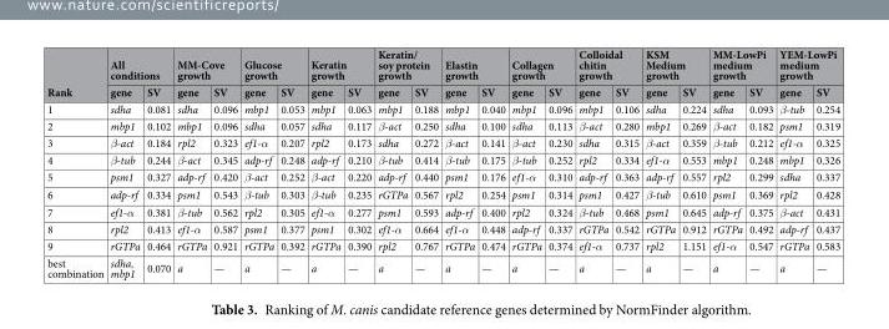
<table><thead><tr><td rowspan="2">Rank</td><td colspan="2">All conditions</td><td colspan="2">MM-Cove growth</td><td colspan="2">Glucose growth</td><td colspan="2">Keratin growth</td><td colspan="2">Keratin/ soy protein growth</td><td colspan="2">Elastin growth</td><td colspan="2">Collagen growth</td><td colspan="2">Colloidal chitin growth</td><td colspan="2">KSM Medium growth</td><td colspan="2">MM-LowPi medium growth</td><td colspan="2">YEM-LowPi medium growth</td></tr><tr><td>gene</td><td>SV</td><td>gene</td><td>SV</td><td>gene</td><td>SV</td><td>gene</td><td>SV</td><td>gene</td><td>SV</td><td>gene</td><td>SV</td><td>gene</td><td>SV</td><td>gene</td><td>SV</td><td>gene</td><td>SV</td><td>gene</td><td>SV</td><td>gene</td><td>SV</td></tr></thead><tbody><tr><td>1</td><td>sdha</td><td>0.081</td><td>sdha</td><td>0.096</td><td>mbp1</td><td>0.053</td><td>mbp1</td><td>0.063</td><td>mbp1</td><td>0.188</td><td>mbp1</td><td>0.040</td><td>mbp1</td><td>0.096</td><td>mbp1</td><td>0.106</td><td>sdha</td><td>0.224</td><td>sdha</td><td>0.093</td><td>β-tub</td><td>0.254</td></tr><tr><td>2</td><td>mbp1</td><td>0.102</td><td>mbp1</td><td>0.096</td><td>sdha</td><td>0.057</td><td>sdha</td><td>0.117</td><td>β-act</td><td>0.250</td><td>sdha</td><td>0.100</td><td>sdha</td><td>0.113</td><td>β-act</td><td>0.280</td><td>mbp1</td><td>0.269</td><td>β-act</td><td>0.182</td><td>psm1</td><td>0.319</td></tr><tr><td>3</td><td>β-act</td><td>0.184</td><td>rpl2</td><td>0.323</td><td>ef1-α</td><td>0.207</td><td>rpl2</td><td>0.173</td><td>sdha</td><td>0.272</td><td>β-act</td><td>0.141</td><td>β-act</td><td>0.230</td><td>sdha</td><td>0.315</td><td>β-act</td><td>0.359</td><td>β-tub</td><td>0.212</td><td>ef1-α</td><td>0.325</td></tr><tr><td>4</td><td>β-tub</td><td>0.244</td><td>β-act</td><td>0.345</td><td>adp-rf</td><td>0.248</td><td>adp-rf</td><td>0.210</td><td>β-tub</td><td>0.414</td><td>β-tub</td><td>0.175</td><td>β-tub</td><td>0.252</td><td>rpl2</td><td>0.334</td><td>ef1-α</td><td>0.553</td><td>mbp1</td><td>0.248</td><td>mbp1</td><td>0.326</td></tr><tr><td>5</td><td>psm1</td><td>0.327</td><td>adp-rf</td><td>0.420</td><td>β-act</td><td>0.252</td><td>β-act</td><td>0.220</td><td>adp-rf</td><td>0.440</td><td>psm1</td><td>0.176</td><td>ef1-α</td><td>0.310</td><td>adp-rf</td><td>0.363</td><td>adp-rf</td><td>0.557</td><td>rpl2</td><td>0.299</td><td>sdha</td><td>0.337</td></tr><tr><td>6</td><td>adp-rf</td><td>0.334</td><td>psm1</td><td>0.543</td><td>β-tub</td><td>0.303</td><td>β-tub</td><td>0.235</td><td>rGTPa</td><td>0.567</td><td>rpl2</td><td>0.254</td><td>psm1</td><td>0.314</td><td>psm1</td><td>0.427</td><td>β-tub</td><td>0.610</td><td>psm1</td><td>0.369</td><td>rpl2</td><td>0.428</td></tr><tr><td>7</td><td>ef1-α</td><td>0.381</td><td>β-tub</td><td>0.562</td><td>rpl2</td><td>0.305</td><td>ef1-α</td><td>0.277</td><td>psm1</td><td>0.593</td><td>adp-rf</td><td>0.400</td><td>rpl2</td><td>0.324</td><td>β-tub</td><td>0.468</td><td>psm1</td><td>0.645</td><td>adp-rf</td><td>0.375</td><td>β-act</td><td>0.431</td></tr><tr><td>8</td><td>rpl2</td><td>0.413</td><td>ef1-α</td><td>0.587</td><td>psm1</td><td>0.377</td><td>psm1</td><td>0.302</td><td>ef1-α</td><td>0.664</td><td>ef1-α</td><td>0.448</td><td>adp-rf</td><td>0.337</td><td>rGTPa</td><td>0.542</td><td>rGTPa</td><td>0.912</td><td>rGTPa</td><td>0.492</td><td>adp-rf</td><td>0.437</td></tr><tr><td>9</td><td>rGTPa</td><td>0.464</td><td>rGTPa</td><td>0.921</td><td>rGTPa</td><td>0.392</td><td>rGTPa</td><td>0.390</td><td>rpl2</td><td>0.767</td><td>rGTPa</td><td>0.474</td><td>rGTPa</td><td>0.374</td><td>ef1-α</td><td>0.737</td><td>rpl2</td><td>1.151</td><td>ef1-α</td><td>0.547</td><td>rGTPa</td><td>0.583</td></tr><tr><td>best combination</td><td>sdha, mbp1</td><td>0.070</td><td>a</td><td>—</td><td>a</td><td>—</td><td>a</td><td>—</td><td>a</td><td>—</td><td>a</td><td>—</td><td>a</td><td>—</td><td>a</td><td>—</td><td>a</td><td>—</td><td>a</td><td>—</td><td>a</td><td>—</td></tr></tbody></table>